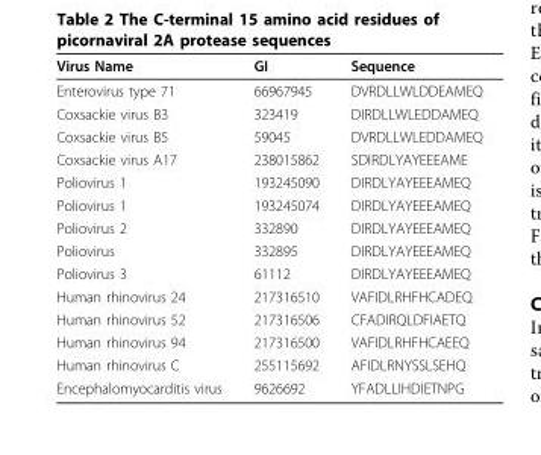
<table><thead><tr><td>Virus Name</td><td>GI</td><td>Sequence</td></tr></thead><tbody><tr><td>Enterovirus type 71</td><td>66967945</td><td>DVRDLLWLDDEAMEQ</td></tr><tr><td>Coxsackie virus B3</td><td>323419</td><td>DIRDLLWLEDDAMEQ</td></tr><tr><td>Coxsackie virus B5</td><td>59045</td><td>DVRDLLWLEDDAMEQ</td></tr><tr><td>Coxsackie virus A17</td><td>238015862</td><td>SDIRDLYAYEEEAME</td></tr><tr><td>Poliovirus 1</td><td>193245090</td><td>DIRDLYAYEEEAMEQ</td></tr><tr><td>Poliovirus 1</td><td>193245074</td><td>DIRDLYAYEEEAMEQ</td></tr><tr><td>Poliovirus 2</td><td>332890</td><td>DIRDLYAYEEEAMEQ</td></tr><tr><td>Poliovirus</td><td>332895</td><td>DIRDLYAYEEEAMEQ</td></tr><tr><td>Poliovirus 3</td><td>61112</td><td>DIRDLYAYEEEAMEQ</td></tr><tr><td>Human rhinovirus 24</td><td>217316510</td><td>VAFIDLRHFHCADEQ</td></tr><tr><td>Human rhinovirus 52</td><td>217316506</td><td>CFADIRQLDFIAETQ</td></tr><tr><td>Human rhinovirus 94</td><td>217316500</td><td>VAFIDLRHFHCAEEQ</td></tr><tr><td>Human rhinovirus C</td><td>255115692</td><td>AFIDLRNYSSLSEHQ</td></tr><tr><td>Encephalomyocarditis virus</td><td>9626692</td><td>YFADLLIHDIETNPG</td></tr></tbody></table>